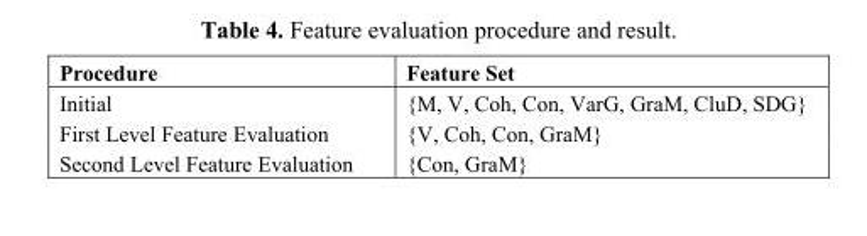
<table><thead><tr><td>Procedure</td><td>Feature Set</td></tr></thead><tbody><tr><td>Initial</td><td>{M, V, Coh, Con, VarG, GraM, CluD, SDG}</td></tr><tr><td>First Level Feature Evaluation</td><td>{V, Coh, Con, GraM}</td></tr><tr><td>Second Level Feature Evaluation</td><td>{Con, GraM}</td></tr></tbody></table>